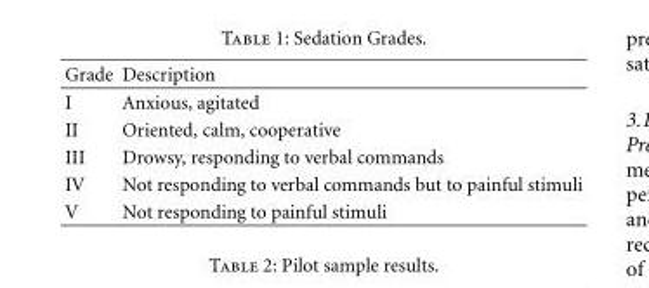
<table><thead><tr><td>Grade</td><td>Description</td></tr></thead><tbody><tr><td>I</td><td>Anxious, agitated</td></tr><tr><td>II</td><td>Oriented, calm, cooperative</td></tr><tr><td>III</td><td>Drowsy, responding to verbal commands</td></tr><tr><td>IV</td><td>Not responding to verbal commands but to painful stimuli</td></tr><tr><td>V</td><td>Not responding to painful stimuli</td></tr></tbody></table>